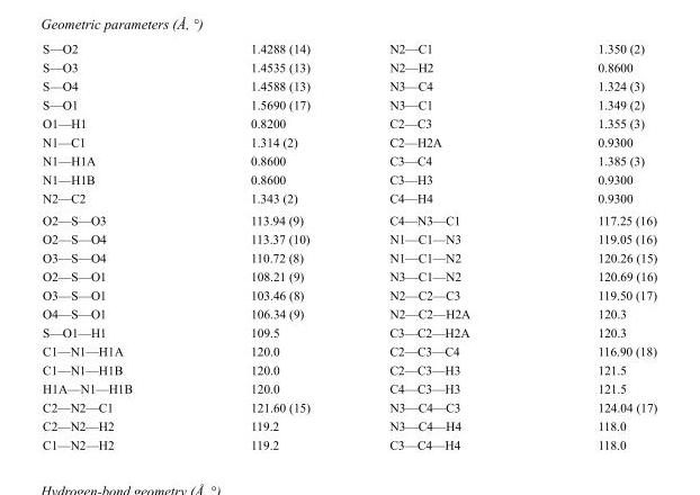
<table><tbody><tr><td>S—O2</td><td>1.4288 (14)</td><td>N2—C1</td><td>1.350 (2)</td></tr><tr><td>S—O3</td><td>1.4535 (13)</td><td>N2—H2</td><td>0.8600</td></tr><tr><td>S—O4</td><td>1.4588 (13)</td><td>N3—C4</td><td>1.324 (3)</td></tr><tr><td>S—O1</td><td>1.5690 (17)</td><td>N3—C1</td><td>1.349 (2)</td></tr><tr><td>O1—H1</td><td>0.8200</td><td>C2—C3</td><td>1.355 (3)</td></tr><tr><td>N1—C1</td><td>1.314 (2)</td><td>C2—H2A</td><td>0.9300</td></tr><tr><td>N1—H1A</td><td>0.8600</td><td>C3—C4</td><td>1.385 (3)</td></tr><tr><td>N1—H1B</td><td>0.8600</td><td>C3—H3</td><td>0.9300</td></tr><tr><td>N2—C2</td><td>1.343 (2)</td><td>C4—H4</td><td>0.9300</td></tr><tr><td>O2—S—O3</td><td>113.94 (9)</td><td>C4—N3—C1</td><td>117.25 (16)</td></tr><tr><td>O2—S—O4</td><td>113.37 (10)</td><td>N1—C1—N3</td><td>119.05 (16)</td></tr><tr><td>O3—S—O4</td><td>110.72 (8)</td><td>N1—C1—N2</td><td>120.26 (15)</td></tr><tr><td>O2—S—O1</td><td>108.21 (9)</td><td>N3—C1—N2</td><td>120.69 (16)</td></tr><tr><td>O3—S—O1</td><td>103.46 (8)</td><td>N2—C2—C3</td><td>119.50 (17)</td></tr><tr><td>O4—S—O1</td><td>106.34 (9)</td><td>N2—C2—H2A</td><td>120.3</td></tr><tr><td>S—O1—H1</td><td>109.5</td><td>C3—C2—H2A</td><td>120.3</td></tr><tr><td>C1—N1—H1A</td><td>120.0</td><td>C2—C3—C4</td><td>116.90 (18)</td></tr><tr><td>C1—N1—H1B</td><td>120.0</td><td>C2—C3—H3</td><td>121.5</td></tr><tr><td>H1A—N1—H1B</td><td>120.0</td><td>C4—C3—H3</td><td>121.5</td></tr><tr><td>C2—N2—C1</td><td>121.60 (15)</td><td>N3—C4—C3</td><td>124.04 (17)</td></tr><tr><td>C2—N2—H2</td><td>119.2</td><td>N3—C4—H4</td><td>118.0</td></tr><tr><td>C1—N2—H2</td><td>119.2</td><td>C3—C4—H4</td><td>118.0</td></tr></tbody></table>